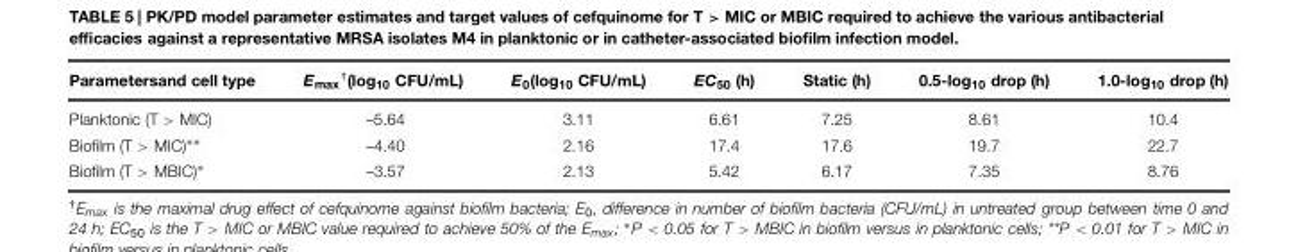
<table><thead><tr><td>Parametersand cell type</td><td>E<sub>max</sub><sup>†</sup>(log<sub>10</sub> CFU/mL)</td><td>E<sub>0</sub>(log<sub>10</sub> CFU/mL)</td><td>EC<sub>50</sub> (h)</td><td>Static (h)</td><td>0.5-log<sub>10</sub> drop (h)</td><td>1.0-log<sub>10</sub> drop (h)</td></tr></thead><tbody><tr><td>Planktonic (T &gt; MIC)</td><td>–5.64</td><td>3.11</td><td>6.61</td><td>7.25</td><td>8.61</td><td>10.4</td></tr><tr><td>Biofilm (T &gt; MIC)∗∗</td><td>–4.40</td><td>2.16</td><td>17.4</td><td>17.6</td><td>19.7</td><td>22.7</td></tr><tr><td>Biofilm (T &gt; MBIC)∗</td><td>–3.57</td><td>2.13</td><td>5.42</td><td>6.17</td><td>7.35</td><td>8.76</td></tr></tbody></table>